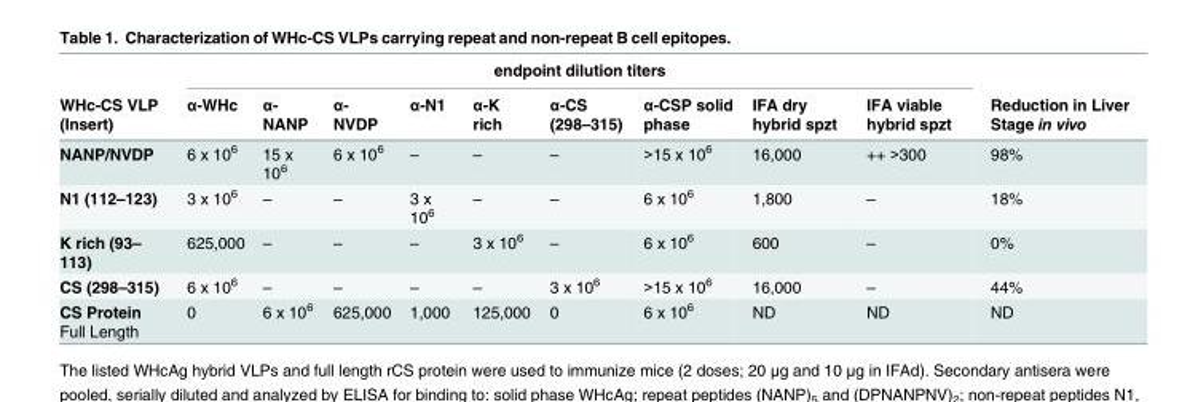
<table><thead><tr><td rowspan="2">WHc-CS VLP (Insert)</td><td colspan="9">endpoint dilution titers</td><td rowspan="2">Reduction in Liver Stage in vivo</td></tr><tr><td>α-WHc</td><td>α- NANP</td><td>α- NVDP</td><td>α-N1</td><td>α-K rich</td><td>α-CS (298–315)</td><td>α-CSP solid phase</td><td>IFA dry hybrid spzt</td><td>IFA viable hybrid spzt</td></tr></thead><tbody><tr><td>NANP/NVDP</td><td>6 x 10<sup>6</sup></td><td>15 x 10<sup>6</sup></td><td>6 x 10<sup>6</sup></td><td>–</td><td>–</td><td>–</td><td>&gt;15 x 10<sup>6</sup></td><td>16,000</td><td>++ &gt;300</td><td>98%</td></tr><tr><td>N1 (112–123)</td><td>3 x 10<sup>6</sup></td><td>–</td><td>–</td><td>3 x 10<sup>6</sup></td><td>–</td><td>–</td><td>6 x 10<sup>6</sup></td><td>1,800</td><td>–</td><td>18%</td></tr><tr><td>K rich (93– 113)</td><td>625,000</td><td>–</td><td>–</td><td>–</td><td>3 x 10<sup>6</sup></td><td>–</td><td>6 x 10<sup>6</sup></td><td>600</td><td>–</td><td>0%</td></tr><tr><td>CS (298–315)</td><td>6 x 10<sup>6</sup></td><td>–</td><td>–</td><td>–</td><td>–</td><td>3 x 10<sup>6</sup></td><td>&gt;15 x 10<sup>6</sup></td><td>16,000</td><td>–</td><td>44%</td></tr><tr><td>CS Protein Full Length</td><td>0</td><td>6 x 10<sup>6</sup></td><td>625,000</td><td>1,000</td><td>125,000</td><td>0</td><td>6 x 10<sup>6</sup></td><td>ND</td><td>ND</td><td>ND</td></tr></tbody></table>